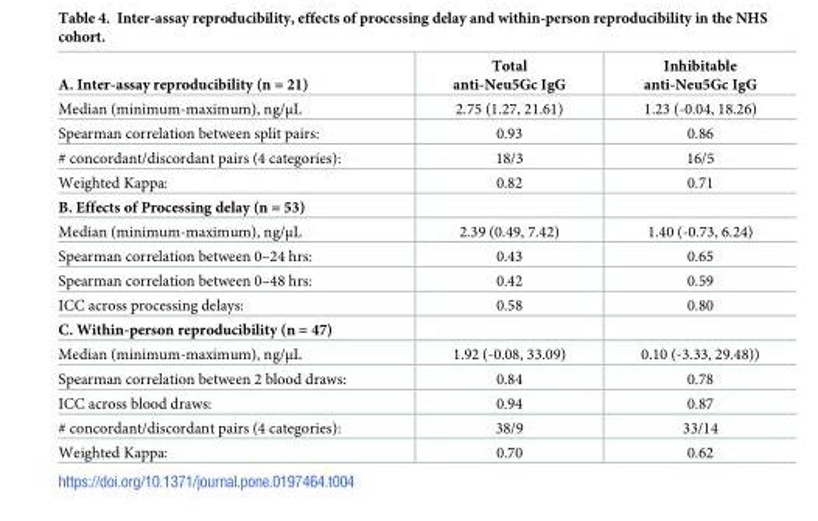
<table><tbody><tr><td>A. Inter-assay reproducibility (n = 21)</td><td>Total anti-Neu5Gc IgG</td><td>Inhibitable anti-Neu5Gc IgG</td></tr><tr><td>Median (minimum-maximum), ng/μL</td><td>2.75 (1.27, 21.61)</td><td>1.23 (-0.04, 18.26)</td></tr><tr><td>Spearman correlation between split pairs:</td><td>0.93</td><td>0.86</td></tr><tr><td># concordant/discordant pairs (4 categories):</td><td>18/3</td><td>16/5</td></tr><tr><td>Weighted Kappa:</td><td>0.82</td><td>0.71</td></tr><tr><td colspan="3">B. Effects of Processing delay (n = 53)</td></tr><tr><td>Median (minimum-maximum), ng/μL</td><td>2.39 (0.49, 7.42)</td><td>1.40 (-0.73, 6.24)</td></tr><tr><td>Spearman correlation between 0–24 hrs:</td><td>0.43</td><td>0.65</td></tr><tr><td>Spearman correlation between 0–48 hrs:</td><td>0.42</td><td>0.59</td></tr><tr><td>ICC across processing delays:</td><td>0.58</td><td>0.80</td></tr><tr><td colspan="3">C. Within-person reproducibility (n = 47)</td></tr><tr><td>Median (minimum-maximum), ng/μL</td><td>1.92 (-0.08, 33.09)</td><td>0.10 (-3.33, 29.48))</td></tr><tr><td>Spearman correlation between 2 blood draws:</td><td>0.84</td><td>0.78</td></tr><tr><td>ICC across blood draws:</td><td>0.94</td><td>0.87</td></tr><tr><td># concordant/discordant pairs (4 categories):</td><td>38/9</td><td>33/14</td></tr><tr><td>Weighted Kappa:</td><td>0.70</td><td>0.62</td></tr></tbody></table>